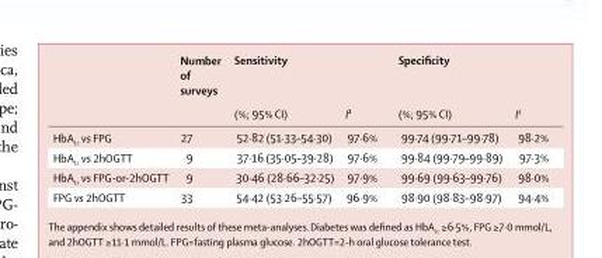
<table><thead><tr><td rowspan="2"></td><td rowspan="2">Number of surveys</td><td colspan="2">Sensitivity</td><td colspan="2">Specifi city</td></tr><tr><td>(%; 95% CI)</td><td>I²</td><td>(%; 95% CI)</td><td>I<sup>2</sup></td></tr></thead><tbody><tr><td>HbA<sub>1c</sub> vs FPG</td><td>27</td><td>52·82 (51·33–54·30)</td><td>97·6%</td><td>99·74 (99·71–99·78)</td><td>98·2%</td></tr><tr><td>HbA<sub>1c</sub> vs 2hOGTT</td><td>9</td><td>37·16 (35·05–39·28)</td><td>97·6%</td><td>99·84 (99·79–99·89)</td><td>97·3%</td></tr><tr><td>HbA<sub>1c</sub> vs FPG-or-2hOGTT</td><td>9</td><td>30·46 (28·66–32·25)</td><td>97·9%</td><td>99·69 (99·63–99·76)</td><td>98·0%</td></tr><tr><td>FPG vs 2hOGTT</td><td>33</td><td>54·42 (53·26–55·57)</td><td>96·9%</td><td>98·90 (98·83–98·97)</td><td>94·4%</td></tr></tbody></table>